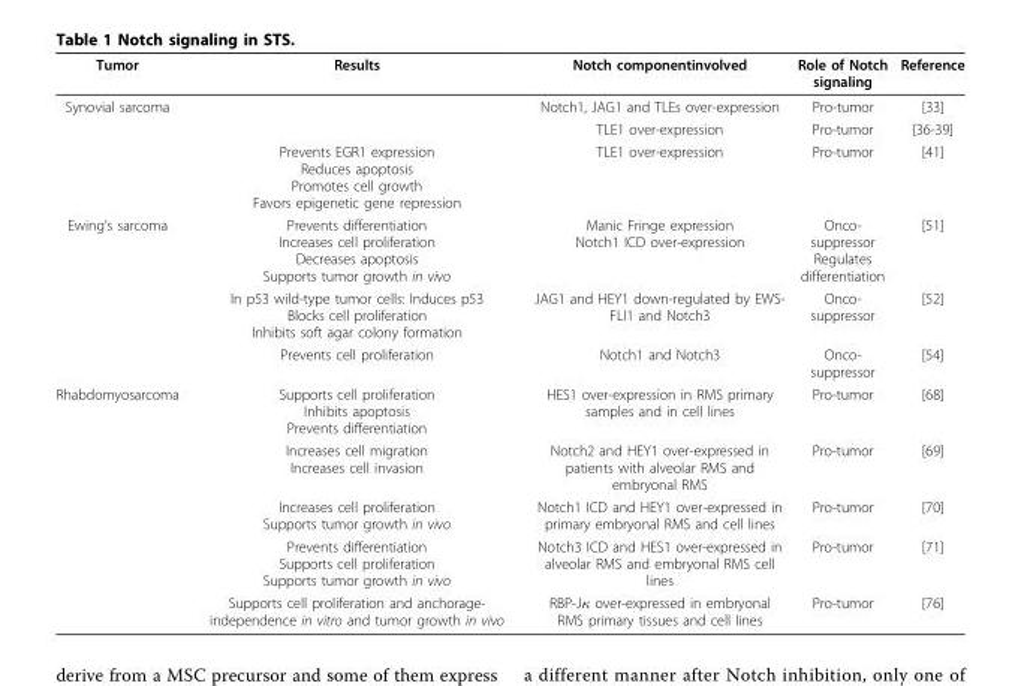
<table><thead><tr><td>Tumor</td><td>Results</td><td>Notch componentinvolved</td><td>Role of Notch signaling</td><td>Reference</td></tr></thead><tbody><tr><td rowspan="3">Synovial sarcoma</td><td></td><td>Notch1, JAG1 and TLEs over-expression</td><td>Pro-tumor</td><td>[33]</td></tr><tr><td></td><td>TLE1 over-expression</td><td>Pro-tumor</td><td>[36-39]</td></tr><tr><td>Prevents EGR1 expression Reduces apoptosis Promotes cell growth Favors epigenetic gene repression</td><td>TLE1 over-expression</td><td>Pro-tumor</td><td>[41]</td></tr><tr><td rowspan="3">Ewing’s sarcoma</td><td>Prevents differentiation Increases cell proliferation Decreases apoptosis Supports tumor growth in vivo</td><td>Manic Fringe expression Notch1 ICD over-expression</td><td>Onco- suppressor Regulates differentiation</td><td>[51]</td></tr><tr><td>In p53 wild-type tumor cells: Induces p53 Blocks cell proliferation Inhibits soft agar colony formation</td><td>JAG1 and HEY1 down-regulated by EWS- FLI1 and Notch3</td><td>Onco- suppressor</td><td>[52]</td></tr><tr><td>Prevents cell proliferation</td><td>Notch1 and Notch3</td><td>Onco- suppressor</td><td>[54]</td></tr><tr><td rowspan="5">Rhabdomyosarcoma</td><td>Supports cell proliferation Inhibits apoptosis Prevents differentiation</td><td>HES1 over-expression in RMS primary samples and in cell lines</td><td>Pro-tumor</td><td>[68]</td></tr><tr><td>Increases cell migration Increases cell invasion</td><td>Notch2 and HEY1 over-expressed in patients with alveolar RMS and embryonal RMS</td><td>Pro-tumor</td><td>[69]</td></tr><tr><td>Increases cell proliferation Supports tumor growth in vivo</td><td>Notch1 ICD and HEY1 over-expressed in primary embryonal RMS and cell lines</td><td>Pro-tumor</td><td>[70]</td></tr><tr><td>Prevents differentiation Supports cell proliferation Supports tumor growth in vivo</td><td>Notch3 ICD and HES1 over-expressed in alveolar RMS and embryonal RMS cell lines</td><td>Pro-tumor</td><td>[71]</td></tr><tr><td>Supports cell proliferation and anchorage- independence in vitro and tumor growth in vivo</td><td>RBP-Jκ over-expressed in embryonal RMS primary tissues and cell lines</td><td>Pro-tumor</td><td>[76]</td></tr></tbody></table>